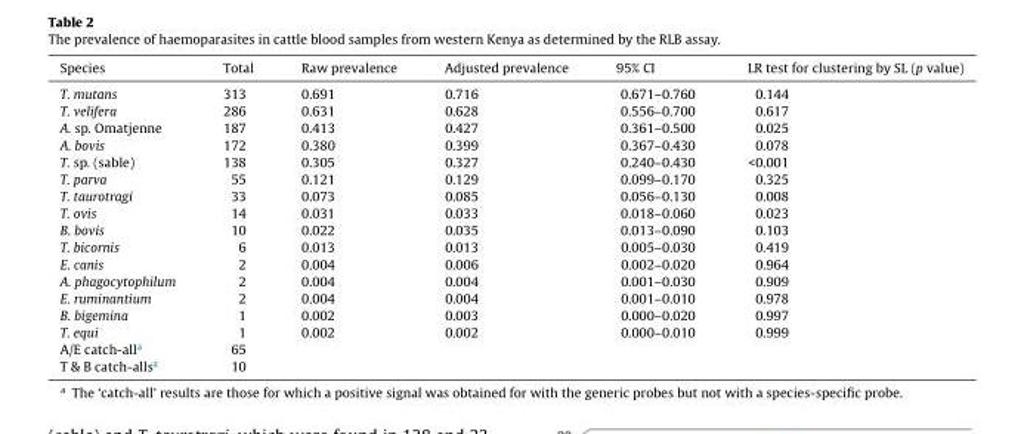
<table><thead><tr><td>Species</td><td>Total</td><td>Raw prevalence</td><td>Adjusted prevalence</td><td>95% CI</td><td>LR test for clustering by SL (p value)</td></tr></thead><tbody><tr><td>T. mutans</td><td>313</td><td>0.691</td><td>0.716</td><td>0.671–0.760</td><td>0.144</td></tr><tr><td>T. velifera</td><td>286</td><td>0.631</td><td>0.628</td><td>0.556–0.700</td><td>0.617</td></tr><tr><td>A. sp. Omatjenne</td><td>187</td><td>0.413</td><td>0.427</td><td>0.361–0.500</td><td>0.025</td></tr><tr><td>A. bovis</td><td>172</td><td>0.380</td><td>0.399</td><td>0.367–0.430</td><td>0.078</td></tr><tr><td>T. sp. (sable)</td><td>138</td><td>0.305</td><td>0.327</td><td>0.240–0.430</td><td>&lt;0.001</td></tr><tr><td>T. parva</td><td>55</td><td>0.121</td><td>0.129</td><td>0.099–0.170</td><td>0.325</td></tr><tr><td>T. taurotragi</td><td>33</td><td>0.073</td><td>0.085</td><td>0.056–0.130</td><td>0.008</td></tr><tr><td>T. ovis</td><td>14</td><td>0.031</td><td>0.033</td><td>0.018–0.060</td><td>0.023</td></tr><tr><td>B. bovis</td><td>10</td><td>0.022</td><td>0.035</td><td>0.013–0.090</td><td>0.103</td></tr><tr><td>T. bicornis</td><td>6</td><td>0.013</td><td>0.013</td><td>0.005–0.030</td><td>0.419</td></tr><tr><td>E. canis</td><td>2</td><td>0.004</td><td>0.006</td><td>0.002–0.020</td><td>0.964</td></tr><tr><td>A. phagocytophilum</td><td>2</td><td>0.004</td><td>0.004</td><td>0.001–0.030</td><td>0.909</td></tr><tr><td>E. ruminantium</td><td>2</td><td>0.004</td><td>0.004</td><td>0.001–0.010</td><td>0.978</td></tr><tr><td>B. bigemina</td><td>1</td><td>0.002</td><td>0.003</td><td>0.000–0.020</td><td>0.997</td></tr><tr><td>T. equi</td><td>1</td><td>0.002</td><td>0.002</td><td>0.000–0.010</td><td>0.999</td></tr><tr><td>A/E catch-all<sup>a</sup></td><td>65</td><td></td><td></td><td></td><td></td></tr><tr><td>T &amp; B catch-alls<sup>a</sup></td><td>10</td><td></td><td></td><td></td><td></td></tr></tbody></table>